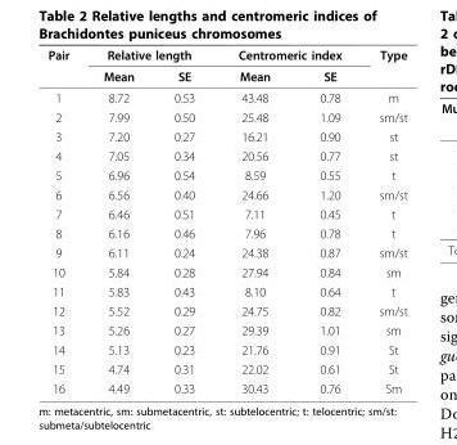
<table><thead><tr><td rowspan="2">Pair</td><td colspan="2">Relative length</td><td colspan="2">Centromeric index</td><td rowspan="2">Type</td></tr><tr><td>Mean</td><td>SE</td><td>Mean</td><td>SE</td></tr></thead><tbody><tr><td>1</td><td>8.72</td><td>0.53</td><td>43.48</td><td>0.78</td><td>m</td></tr><tr><td>2</td><td>7.99</td><td>0.50</td><td>25.48</td><td>1.09</td><td>sm/st</td></tr><tr><td>3</td><td>7.20</td><td>0.27</td><td>16.21</td><td>0.90</td><td>st</td></tr><tr><td>4</td><td>7.05</td><td>0.34</td><td>20.56</td><td>0.77</td><td>st</td></tr><tr><td>5</td><td>6.96</td><td>0.54</td><td>8.59</td><td>0.55</td><td>t</td></tr><tr><td>6</td><td>6.56</td><td>0.40</td><td>24.66</td><td>1.20</td><td>sm/st</td></tr><tr><td>7</td><td>6.46</td><td>0.51</td><td>7.11</td><td>0.45</td><td>t</td></tr><tr><td>8</td><td>6.16</td><td>0.46</td><td>7.96</td><td>0.78</td><td>t</td></tr><tr><td>9</td><td>6.11</td><td>0.24</td><td>24.38</td><td>0.87</td><td>sm/st</td></tr><tr><td>10</td><td>5.84</td><td>0.28</td><td>27.94</td><td>0.84</td><td>sm</td></tr><tr><td>11</td><td>5.83</td><td>0.43</td><td>8.10</td><td>0.64</td><td>t</td></tr><tr><td>12</td><td>5.52</td><td>0.29</td><td>24.75</td><td>0.82</td><td>sm/st</td></tr><tr><td>13</td><td>5.26</td><td>0.27</td><td>29.39</td><td>1.01</td><td>sm</td></tr><tr><td>14</td><td>5.13</td><td>0.23</td><td>21.76</td><td>0.91</td><td>St</td></tr><tr><td>15</td><td>4.74</td><td>0.31</td><td>22.02</td><td>0.61</td><td>St</td></tr><tr><td>16</td><td>4.49</td><td>0.33</td><td>30.43</td><td>0.76</td><td>Sm</td></tr></tbody></table>